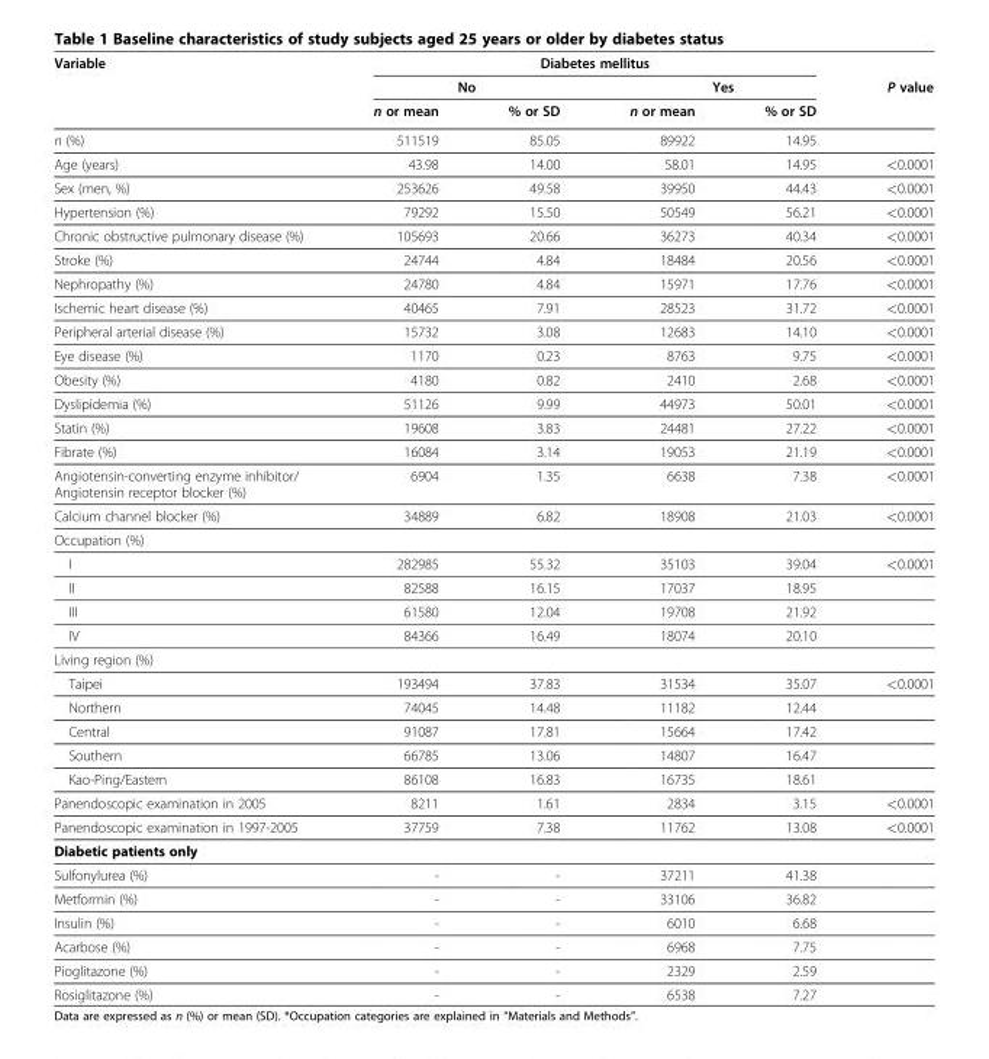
<table><thead><tr><td rowspan="3">Variable</td><td colspan="4">Diabetes mellitus</td><td rowspan="3">P value</td></tr><tr><td colspan="2">No</td><td colspan="2">Yes</td></tr><tr><td>n or mean</td><td>% or SD</td><td>n or mean</td><td>% or SD</td></tr></thead><tbody><tr><td>n (%)</td><td>511519</td><td>85.05</td><td>89922</td><td>14.95</td><td></td></tr><tr><td>Age (years)</td><td>43.98</td><td>14.00</td><td>58.01</td><td>14.95</td><td>&lt;0.0001</td></tr><tr><td>Sex (men, %)</td><td>253626</td><td>49.58</td><td>39950</td><td>44.43</td><td>&lt;0.0001</td></tr><tr><td>Hypertension (%)</td><td>79292</td><td>15.50</td><td>50549</td><td>56.21</td><td>&lt;0.0001</td></tr><tr><td>Chronic obstructive pulmonary disease (%)</td><td>105693</td><td>20.66</td><td>36273</td><td>40.34</td><td>&lt;0.0001</td></tr><tr><td>Stroke (%)</td><td>24744</td><td>4.84</td><td>18484</td><td>20.56</td><td>&lt;0.0001</td></tr><tr><td>Nephropathy (%)</td><td>24780</td><td>4.84</td><td>15971</td><td>17.76</td><td>&lt;0.0001</td></tr><tr><td>Ischemic heart disease (%)</td><td>40465</td><td>7.91</td><td>28523</td><td>31.72</td><td>&lt;0.0001</td></tr><tr><td>Peripheral arterial disease (%)</td><td>15732</td><td>3.08</td><td>12683</td><td>14.10</td><td>&lt;0.0001</td></tr><tr><td>Eye disease (%)</td><td>1170</td><td>0.23</td><td>8763</td><td>9.75</td><td>&lt;0.0001</td></tr><tr><td>Obesity (%)</td><td>4180</td><td>0.82</td><td>2410</td><td>2.68</td><td>&lt;0.0001</td></tr><tr><td>Dyslipidemia (%)</td><td>51126</td><td>9.99</td><td>44973</td><td>50.01</td><td>&lt;0.0001</td></tr><tr><td>Statin (%)</td><td>19608</td><td>3.83</td><td>24481</td><td>27.22</td><td>&lt;0.0001</td></tr><tr><td>Fibrate (%)</td><td>16084</td><td>3.14</td><td>19053</td><td>21.19</td><td>&lt;0.0001</td></tr><tr><td>Angiotensin-converting enzyme inhibitor/ Angiotensin receptor blocker (%)</td><td>6904</td><td>1.35</td><td>6638</td><td>7.38</td><td>&lt;0.0001</td></tr><tr><td>Calcium channel blocker (%)</td><td>34889</td><td>6.82</td><td>18908</td><td>21.03</td><td>&lt;0.0001</td></tr><tr><td colspan="6">Occupation (%)</td></tr><tr><td>I</td><td>282985</td><td>55.32</td><td>35103</td><td>39.04</td><td>&lt;0.0001</td></tr><tr><td>II</td><td>82588</td><td>16.15</td><td>17037</td><td>18.95</td><td></td></tr><tr><td>III</td><td>61580</td><td>12.04</td><td>19708</td><td>21.92</td><td></td></tr><tr><td>IV</td><td>84366</td><td>16.49</td><td>18074</td><td>20.10</td><td></td></tr><tr><td colspan="6">Living region (%)</td></tr><tr><td>Taipei</td><td>193494</td><td>37.83</td><td>31534</td><td>35.07</td><td>&lt;0.0001</td></tr><tr><td>Northern</td><td>74045</td><td>14.48</td><td>11182</td><td>12.44</td><td></td></tr><tr><td>Central</td><td>91087</td><td>17.81</td><td>15664</td><td>17.42</td><td></td></tr><tr><td>Southern</td><td>66785</td><td>13.06</td><td>14807</td><td>16.47</td><td></td></tr><tr><td>Kao-Ping/Eastern</td><td>86108</td><td>16.83</td><td>16735</td><td>18.61</td><td></td></tr><tr><td>Panendoscopic examination in 2005</td><td>8211</td><td>1.61</td><td>2834</td><td>3.15</td><td>&lt;0.0001</td></tr><tr><td>Panendoscopic examination in 1997-2005</td><td>37759</td><td>7.38</td><td>11762</td><td>13.08</td><td>&lt;0.0001</td></tr><tr><td colspan="6">Diabetic patients only</td></tr><tr><td>Sulfonylurea (%)</td><td>-</td><td>-</td><td>37211</td><td>41.38</td><td></td></tr><tr><td>Metformin (%)</td><td>-</td><td>-</td><td>33106</td><td>36.82</td><td></td></tr><tr><td>Insulin (%)</td><td>-</td><td>-</td><td>6010</td><td>6.68</td><td></td></tr><tr><td>Acarbose (%)</td><td>-</td><td>-</td><td>6968</td><td>7.75</td><td></td></tr><tr><td>Pioglitazone (%)</td><td>-</td><td>-</td><td>2329</td><td>2.59</td><td></td></tr><tr><td>Rosiglitazone (%)</td><td>-</td><td>-</td><td>6538</td><td>7.27</td><td></td></tr></tbody></table>